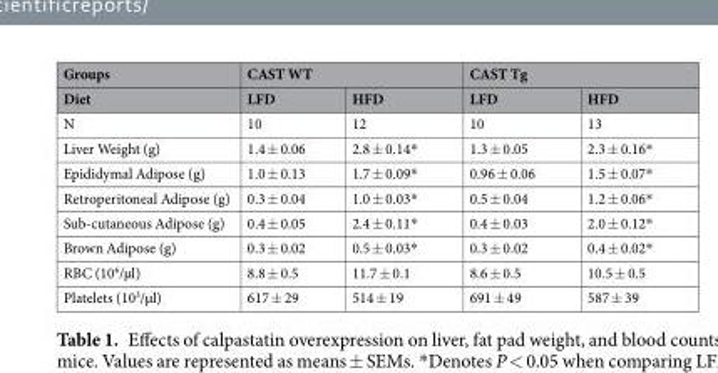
<table><thead><tr><td rowspan="2">Groups Diet</td><td colspan="2">CAST WT</td><td colspan="2">CAST Tg</td></tr><tr><td>LFD</td><td>HFD</td><td>LFD</td><td>HFD</td></tr></thead><tbody><tr><td>N</td><td>10</td><td>12</td><td>10</td><td>13</td></tr><tr><td>Liver Weight (g)</td><td>1.4 ± 0.06</td><td>2.8 ± 0.14*</td><td>1.3 ± 0.05</td><td>2.3 ± 0.16*</td></tr><tr><td>Epididymal Adipose (g)</td><td>1.0 ± 0.13</td><td>1.7 ± 0.09*</td><td>0.96 ± 0.06</td><td>1.5 ± 0.07*</td></tr><tr><td>Retroperitoneal Adipose (g)</td><td>0.3 ± 0.04</td><td>1.0 ± 0.03*</td><td>0.5 ± 0.04</td><td>1.2 ± 0.06*</td></tr><tr><td>Sub-cutaneous Adipose (g)</td><td>0.4 ± 0.05</td><td>2.4 ± 0.11*</td><td>0.4 ± 0.03</td><td>2.0 ± 0.12*</td></tr><tr><td>Brown Adipose (g)</td><td>0.3 ± 0.02</td><td>0.5 ± 0.03*</td><td>0.3 ± 0.02</td><td>0.4 ± 0.02*</td></tr><tr><td>RBC (10<sup>6</sup>/µl)</td><td>8.8 ± 0.5</td><td>11.7 ± 0.1</td><td>8.6 ± 0.5</td><td>10.5 ± 0.5</td></tr><tr><td>Platelets (10<sup>3</sup>/µl)</td><td>617 ± 29</td><td>514 ± 19</td><td>691 ± 49</td><td>587 ± 39</td></tr></tbody></table>